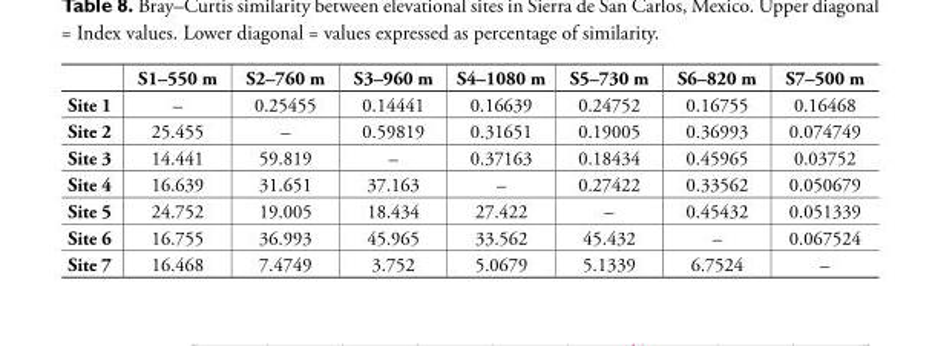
<table><thead><tr><td></td><td>S1–550 m</td><td>S2–760 m</td><td>S3–960 m</td><td>S4–1080 m</td><td>S5–730 m</td><td>S6–820 m</td><td>S7–500 m</td></tr></thead><tbody><tr><td>Site 1</td><td>–</td><td>0.25455</td><td>0.14441</td><td>0.16639</td><td>0.24752</td><td>0.16755</td><td>0.16468</td></tr><tr><td>Site 2</td><td>25.455</td><td>–</td><td>0.59819</td><td>0.31651</td><td>0.19005</td><td>0.36993</td><td>0.074749</td></tr><tr><td>Site 3</td><td>14.441</td><td>59.819</td><td>–</td><td>0.37163</td><td>0.18434</td><td>0.45965</td><td>0.03752</td></tr><tr><td>Site 4</td><td>16.639</td><td>31.651</td><td>37.163</td><td>–</td><td>0.27422</td><td>0.33562</td><td>0.050679</td></tr><tr><td>Site 5</td><td>24.752</td><td>19.005</td><td>18.434</td><td>27.422</td><td>–</td><td>0.45432</td><td>0.051339</td></tr><tr><td>Site 6</td><td>16.755</td><td>36.993</td><td>45.965</td><td>33.562</td><td>45.432</td><td>–</td><td>0.067524</td></tr><tr><td>Site 7</td><td>16.468</td><td>7.4749</td><td>3.752</td><td>5.0679</td><td>5.1339</td><td>6.7524</td><td>–</td></tr></tbody></table>